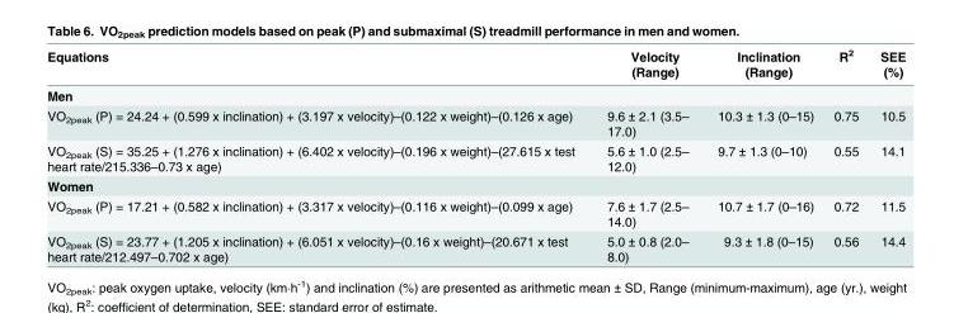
<table><thead><tr><td>Equations</td><td>Velocity (Range)</td><td>Inclination (Range)</td><td>R<sup>2</sup></td><td>SEE (%)</td></tr></thead><tbody><tr><td colspan="5">Men</td></tr><tr><td>VO<sub>2peak</sub> (P) = 24.24 + (0.599 x inclination) + (3.197 x velocity)–(0.122 x weight)–(0.126 x age)</td><td>9.6 ± 2.1 (3.5– 17.0)</td><td>10.3 ± 1.3 (0–15)</td><td>0.75</td><td>10.5</td></tr><tr><td>VO<sub>2peak</sub> (S) = 35.25 + (1.276 x inclination) + (6.402 x velocity)–(0.196 x weight)–(27.615 x test heart rate/215.336–0.73 x age)</td><td>5.6 ± 1.0 (2.5– 12.0)</td><td>9.7 ± 1.3 (0–10)</td><td>0.55</td><td>14.1</td></tr><tr><td colspan="5">Women</td></tr><tr><td>VO<sub>2peak</sub> (P) = 17.21 + (0.582 x inclination) + (3.317 x velocity)–(0.116 x weight)–(0.099 x age)</td><td>7.6 ± 1.7 (2.5– 14.0)</td><td>10.7 ± 1.7 (0–16)</td><td>0.72</td><td>11.5</td></tr><tr><td>VO<sub>2peak</sub> (S) = 23.77 + (1.205 x inclination) + (6.051 x velocity)–(0.16 x weight)–(20.671 x test heart rate/212.497–0.702 x age)</td><td>5.0 ± 0.8 (2.0– 8.0)</td><td>9.3 ± 1.8 (0–15)</td><td>0.56</td><td>14.4</td></tr></tbody></table>